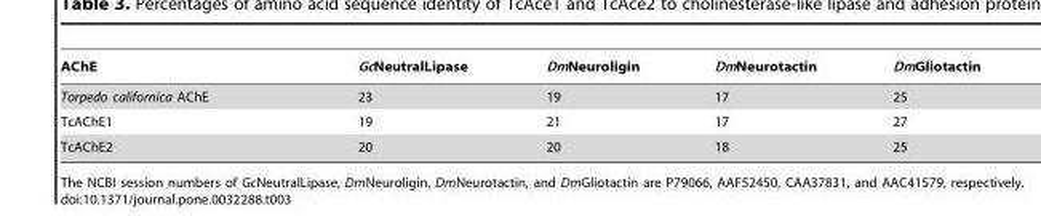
<table><thead><tr><td>AChE</td><td>GcNeutralLipase</td><td>DmNeuroligin</td><td>DmNeurotactin</td><td>DmGliotactin</td></tr></thead><tbody><tr><td>Torpedo californica AChE</td><td>23</td><td>19</td><td>17</td><td>25</td></tr><tr><td>TcAChE1</td><td>19</td><td>21</td><td>17</td><td>27</td></tr><tr><td>TcAChE2</td><td>20</td><td>20</td><td>18</td><td>25</td></tr></tbody></table>